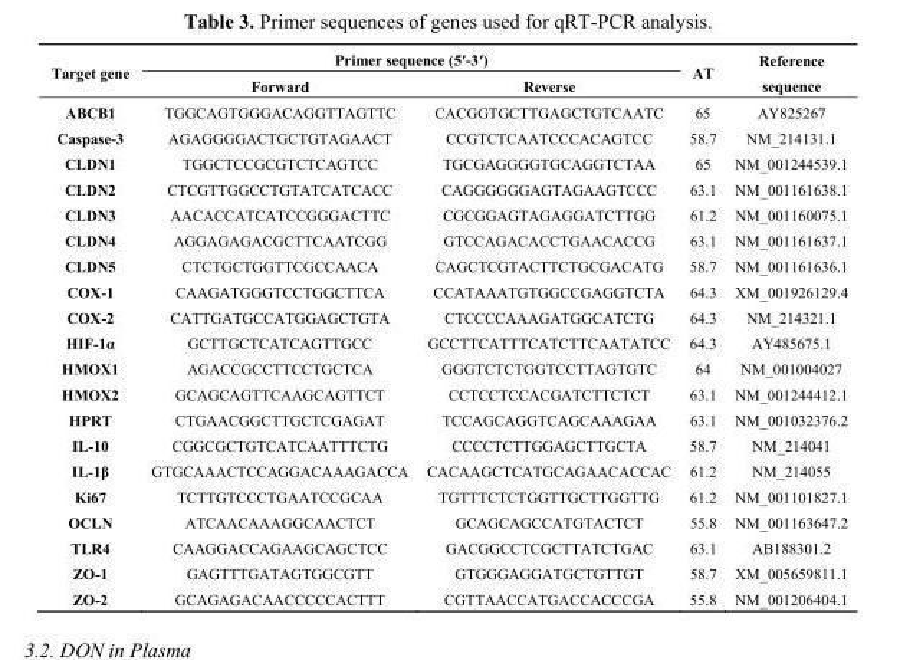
<table><thead><tr><td rowspan="2">Target gene</td><td colspan="2">Primer sequence (5′-3′)</td><td rowspan="2">AT</td><td rowspan="2">Reference sequence</td></tr><tr><td>Forward</td><td>Reverse</td></tr></thead><tbody><tr><td>ABCB1</td><td>TGGCAGTGGGACAGGTTAGTTC</td><td>CACGGTGCTTGAGCTGTCAATC</td><td>65</td><td>AY825267</td></tr><tr><td>Caspase-3</td><td>AGAGGGGACTGCTGTAGAACT</td><td>CCGTCTCAATCCCACAGTCC</td><td>58.7</td><td>NM_214131.1</td></tr><tr><td>CLDN1</td><td>TGGCTCCGCGTCTCAGTCC</td><td>TGCGAGGGGTGCAGGTCTAA</td><td>65</td><td>NM_001244539.1</td></tr><tr><td>CLDN2</td><td>CTCGTTGGCCTGTATCATCACC</td><td>CAGGGGGGAGTAGAAGTCCC</td><td>63.1</td><td>NM_001161638.1</td></tr><tr><td>CLDN3</td><td>AACACCATCATCCGGGACTTC</td><td>CGCGGAGTAGAGGATCTTGG</td><td>61.2</td><td>NM_001160075.1</td></tr><tr><td>CLDN4</td><td>AGGAGAGACGCTTCAATCGG</td><td>GTCCAGACACCTGAACACCG</td><td>63.1</td><td>NM_001161637.1</td></tr><tr><td>CLDN5</td><td>CTCTGCTGGTTCGCCAACA</td><td>CAGCTCGTACTTCTGCGACATG</td><td>58.7</td><td>NM_001161636.1</td></tr><tr><td>COX-1</td><td>CAAGATGGGTCCTGGCTTCA</td><td>CCATAAATGTGGCCGAGGTCTA</td><td>64.3</td><td>XM_001926129.4</td></tr><tr><td>COX-2</td><td>CATTGATGCCATGGAGCTGTA</td><td>CTCCCCAAAGATGGCATCTG</td><td>64.3</td><td>NM_214321.1</td></tr><tr><td>HIF-1α</td><td>GCTTGCTCATCAGTTGCC</td><td>GCCTTCATTTCATCTTCAATATCC</td><td>64.3</td><td>AY485675.1</td></tr><tr><td>HMOX1</td><td>AGACCGCCTTCCTGCTCA</td><td>GGGTCTCTGGTCCTTAGTGTC</td><td>64</td><td>NM_001004027</td></tr><tr><td>HMOX2</td><td>GCAGCAGTTCAAGCAGTTCT</td><td>CCTCCTCCACGATCTTCTCT</td><td>63.1</td><td>NM_001244412.1</td></tr><tr><td>HPRT</td><td>CTGAACGGCTTGCTCGAGAT</td><td>TCCAGCAGGTCAGCAAAGAA</td><td>63.1</td><td>NM_001032376.2</td></tr><tr><td>IL-10</td><td>CGGCGCTGTCATCAATTTCTG</td><td>CCCCTCTTGGAGCTTGCTA</td><td>58.7</td><td>NM_214041</td></tr><tr><td>IL-1β</td><td>GTGCAAACTCCAGGACAAAGACCA</td><td>CACAAGCTCATGCAGAACACCAC</td><td>61.2</td><td>NM_214055</td></tr><tr><td>Ki67</td><td>TCTTGTCCCTGAATCCGCAA</td><td>TGTTTCTCTGGTTGCTTGGTTG</td><td>61.2</td><td>NM_001101827.1</td></tr><tr><td>OCLN</td><td>ATCAACAAAGGCAACTCT</td><td>GCAGCAGCCATGTACTCT</td><td>55.8</td><td>NM_001163647.2</td></tr><tr><td>TLR4</td><td>CAAGGACCAGAAGCAGCTCC</td><td>GACGGCCTCGCTTATCTGAC</td><td>63.1</td><td>AB188301.2</td></tr><tr><td>ZO-1</td><td>GAGTTTGATAGTGGCGTT</td><td>GTGGGAGGATGCTGTTGT</td><td>58.7</td><td>XM_005659811.1</td></tr><tr><td>ZO-2</td><td>GCAGAGACAACCCCCACTTT</td><td>CGTTAACCATGACCACCCGA</td><td>55.8</td><td>NM_001206404.1</td></tr></tbody></table>